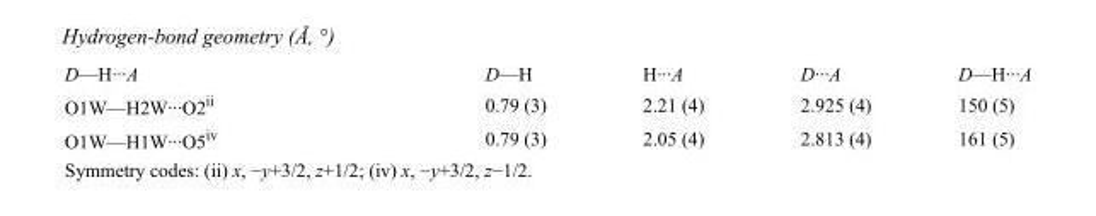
<table><tbody><tr><td>D—H···A</td><td>D—H</td><td>H···A</td><td>D···A</td><td>D—H···A</td></tr><tr><td>O1W—H2W···O2<sup>ii</sup></td><td>0.79 (3)</td><td>2.21 (4)</td><td>2.925 (4)</td><td>150 (5)</td></tr><tr><td>O1W—H1W···O5<sup>iv</sup></td><td>0.79 (3)</td><td>2.05 (4)</td><td>2.813 (4)</td><td>161 (5)</td></tr></tbody></table>